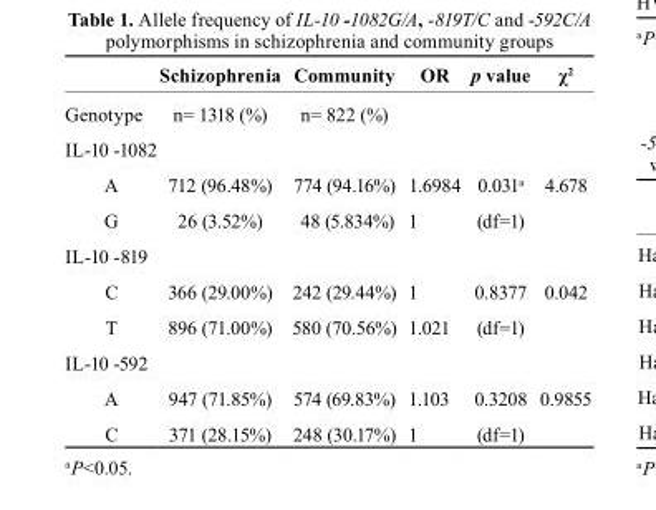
<table><thead><tr><td></td><td>schizophrenia</td><td>community</td><td>or</td><td>p value</td><td>χ<sup>2</sup></td></tr></thead><tbody><tr><td>Genotype</td><td>n= 1318 (%)</td><td>n= 822 (%)</td><td></td><td></td><td></td></tr><tr><td colspan="6">IL-10 -1082</td></tr><tr><td>A</td><td>712 (96.48%)</td><td>774 (94.16%)</td><td>1.6984</td><td>0.031<sup>a</sup></td><td>4.678</td></tr><tr><td>G</td><td>26 (3.52%)</td><td>48 (5.834%)</td><td>1</td><td>(df=1)</td><td></td></tr><tr><td colspan="6">IL-10 -819</td></tr><tr><td>C</td><td>366 (29.00%)</td><td>242 (29.44%)</td><td>1</td><td>0.8377</td><td>0.042</td></tr><tr><td>T</td><td>896 (71.00%)</td><td>580 (70.56%)</td><td>1.021</td><td>(df=1)</td><td></td></tr><tr><td colspan="6">IL-10 -592</td></tr><tr><td>A</td><td>947 (71.85%)</td><td>574 (69.83%)</td><td>1.103</td><td>0.3208</td><td>0.9855</td></tr><tr><td>C</td><td>371 (28.15%)</td><td>248 (30.17%)</td><td>1</td><td>(df=1)</td><td></td></tr></tbody></table>